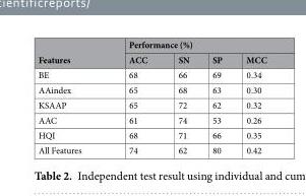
<table><thead><tr><td rowspan="2">Features</td><td colspan="4">Performance (%)</td></tr><tr><td>ACC</td><td>SN</td><td>SP</td><td>MCC</td></tr></thead><tbody><tr><td>BE</td><td>68</td><td>66</td><td>69</td><td>0.34</td></tr><tr><td>AAindex</td><td>65</td><td>68</td><td>63</td><td>0.30</td></tr><tr><td>KSAAP</td><td>65</td><td>72</td><td>62</td><td>0.32</td></tr><tr><td>AAC</td><td>61</td><td>74</td><td>53</td><td>0.26</td></tr><tr><td>HQI</td><td>68</td><td>71</td><td>66</td><td>0.35</td></tr><tr><td>All Features</td><td>74</td><td>62</td><td>80</td><td>0.42</td></tr></tbody></table>